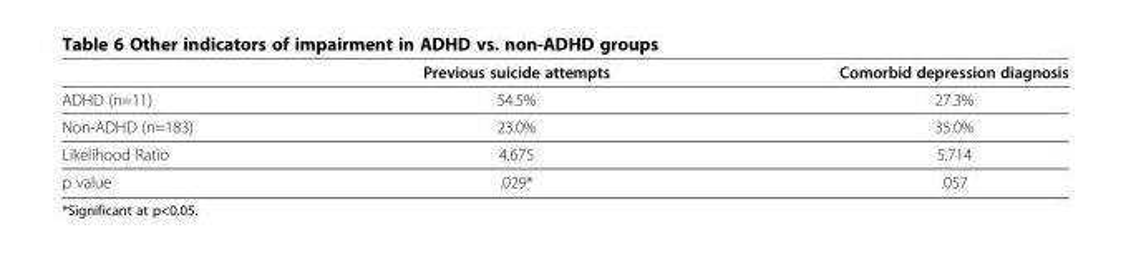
<table><thead><tr><td></td><td>Previous suicide attempts</td><td>Comorbid depression diagnosis</td></tr></thead><tbody><tr><td>ADHD (n=11)</td><td>54.5%</td><td>27.3%</td></tr><tr><td>Non-ADHD (n=183)</td><td>23.0%</td><td>35.0%</td></tr><tr><td>Likelihood Ratio</td><td>4.675</td><td>5.714</td></tr><tr><td>p value</td><td>.029*</td><td>.057</td></tr></tbody></table>